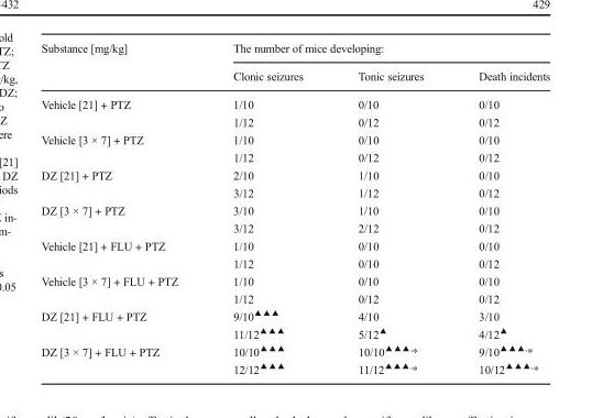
<table><thead><tr><td rowspan="2">Substance [mg/kg]</td><td colspan="3">The number of mice developing:</td></tr><tr><td>Clonic seizures</td><td>Tonic seizures</td><td>Death incidents</td></tr></thead><tbody><tr><td rowspan="2">Vehicle [21] + PTZ</td><td>1/10</td><td>0/10</td><td>0/10</td></tr><tr><td>1/12</td><td>0/12</td><td>0/12</td></tr><tr><td rowspan="2">Vehicle [3 × 7] + PTZ</td><td>1/10</td><td>0/10</td><td>0/10</td></tr><tr><td>1/12</td><td>0/12</td><td>0/12</td></tr><tr><td rowspan="2">DZ [21] + PTZ</td><td>2/10</td><td>1/10</td><td>0/10</td></tr><tr><td>3/12</td><td>1/12</td><td>0/12</td></tr><tr><td rowspan="2">DZ [3 × 7] + PTZ</td><td>3/10</td><td>1/10</td><td>0/10</td></tr><tr><td>3/12</td><td>2/12</td><td>0/12</td></tr><tr><td rowspan="2">Vehicle [21] + FLU + PTZ</td><td>1/10</td><td>0/10</td><td>0/10</td></tr><tr><td>1/12</td><td>0/10</td><td>0/12</td></tr><tr><td rowspan="2">Vehicle [3 × 7] + FLU + PTZ</td><td>1/10</td><td>0/10</td><td>0/10</td></tr><tr><td>1/12</td><td>0/12</td><td>0/12</td></tr><tr><td rowspan="2">DZ [21] + FLU + PTZ</td><td>9/10<sup>▲▲▲</sup></td><td>4/10</td><td>3/10</td></tr><tr><td>11/12<sup>▲▲▲</sup></td><td>5/12<sup>▲</sup></td><td>4/12<sup>▲</sup></td></tr><tr><td rowspan="2">DZ [3 × 7] + FLU + PTZ</td><td>10/10<sup>▲▲▲</sup></td><td>10/10<sup>▲▲▲,</sup>*</td><td>9/10<sup>▲▲▲,</sup>*</td></tr><tr><td>12/12<sup>▲▲▲</sup></td><td>11/12<sup>▲▲▲,</sup>*</td><td>10/12<sup>▲▲▲,</sup>*</td></tr></tbody></table>